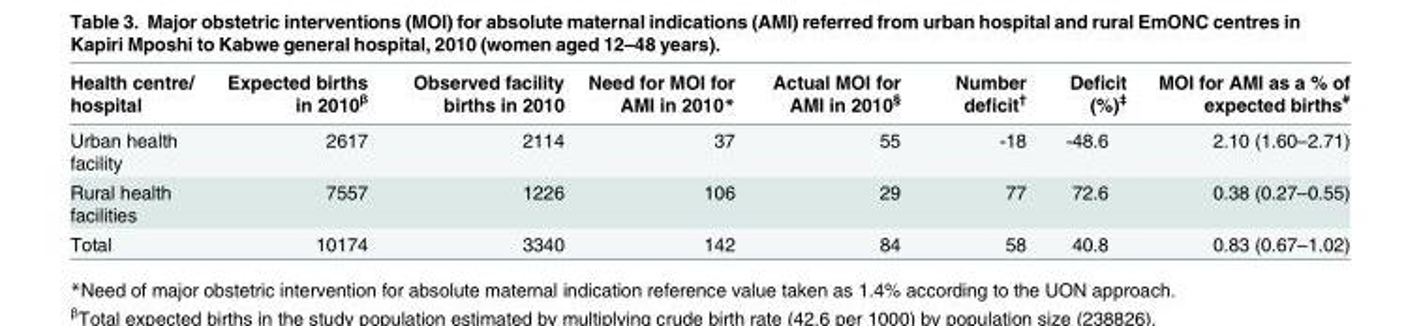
<table><thead><tr><td>Health centre/ hospital</td><td>Expected births in 2010<sup>β</sup></td><td>Observed facility births in 2010</td><td>Need for MOI for AMI in 2010*</td><td>Actual MOI for AMI in 2010<sup>§</sup></td><td>Number deficit<sup>†</sup></td><td>Deficit (%)<sup>‡</sup></td><td>MOI for AMI as a % of expected births<sup>#</sup></td></tr></thead><tbody><tr><td>Urban health facility</td><td>2617</td><td>2114</td><td>37</td><td>55</td><td>-18</td><td>-48.6</td><td>2.10 (1.60–2.71)</td></tr><tr><td>Rural health facilities</td><td>7557</td><td>1226</td><td>106</td><td>29</td><td>77</td><td>72.6</td><td>0.38 (0.27–0.55)</td></tr><tr><td>Total</td><td>10174</td><td>3340</td><td>142</td><td>84</td><td>58</td><td>40.8</td><td>0.83 (0.67–1.02)</td></tr></tbody></table>